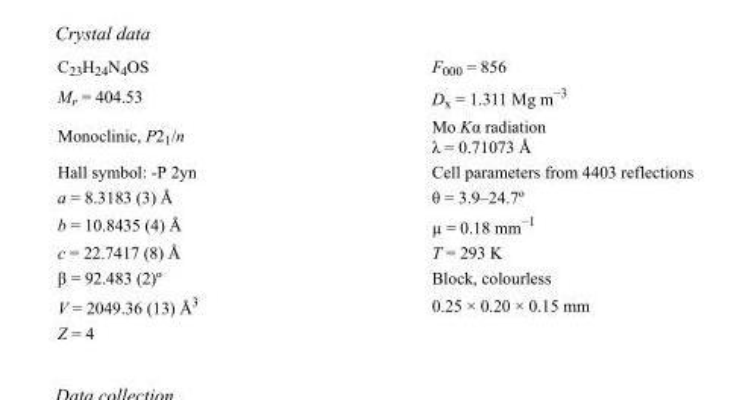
<table><tbody><tr><td>C<sub>23</sub>H<sub>24</sub>N<sub>4</sub>OS</td><td>F000 = 856</td></tr><tr><td>M<sub>r</sub> = 404.53</td><td>D<sub>x</sub> = 1.311 Mg m<sup>−3</sup></td></tr><tr><td>Monoclinic, P2<sub>1</sub>/n</td><td>Mo Kα radiation λ = 0.71073 Å</td></tr><tr><td>Hall symbol: -P 2yn</td><td>Cell parameters from 4403 reflections</td></tr><tr><td>a = 8.3183 (3) Å</td><td>θ = 3.9–24.7º</td></tr><tr><td>b = 10.8435 (4) Å</td><td>µ = 0.18 mm<sup>−1</sup></td></tr><tr><td>c = 22.7417 (8) Å</td><td>T = 293 K</td></tr><tr><td>β = 92.483 (2)º</td><td>Block, colourless</td></tr><tr><td>V = 2049.36 (13) Å<sup>3</sup></td><td>0.25 × 0.20 × 0.15 mm</td></tr><tr><td>Z = 4</td><td></td></tr></tbody></table>